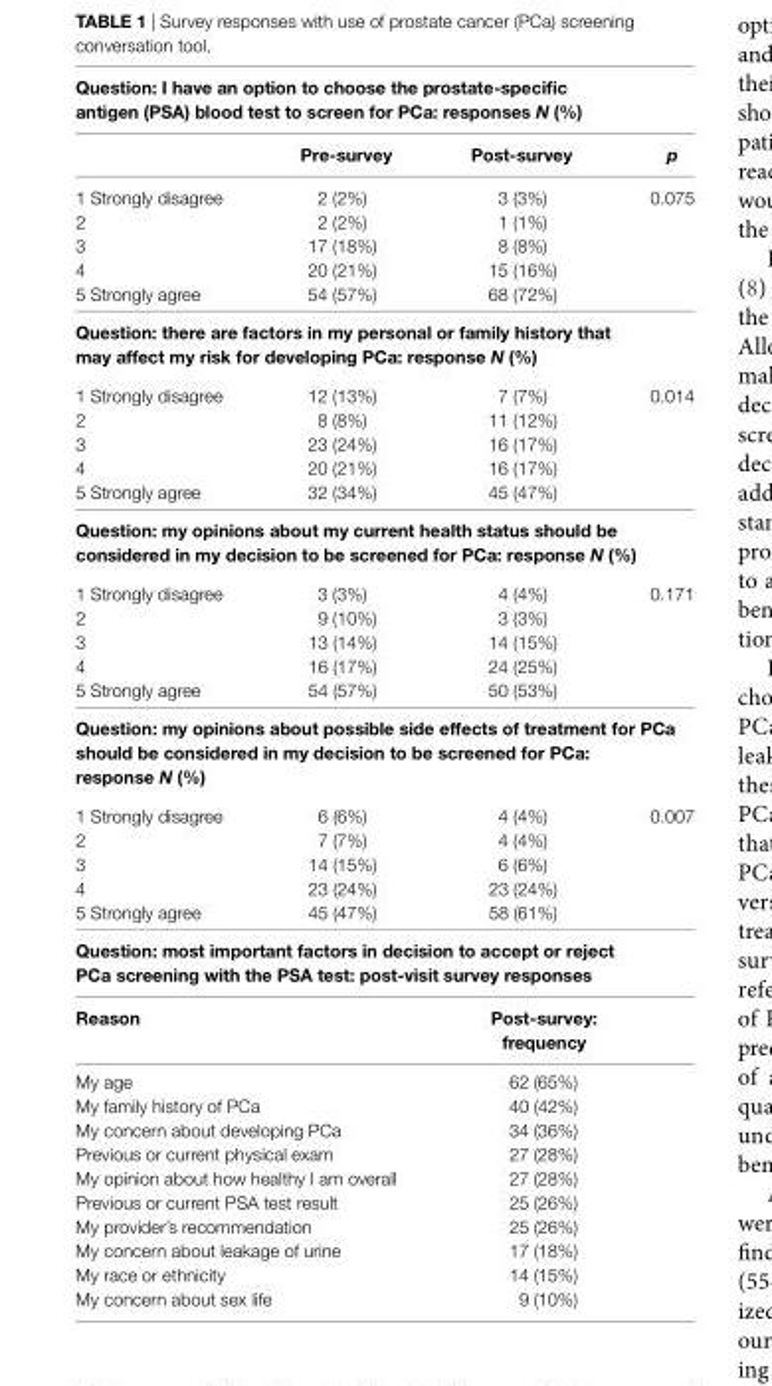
<table><thead><tr><td colspan="4">Question: i have an option to choose the prostate-specific antigen (Psa) blood test to screen for Pca: responses N (%)</td></tr><tr><td></td><td>Pre-survey</td><td>Post-survey</td><td>p</td></tr></thead><tbody><tr><td>1 Strongly disagree</td><td>2 (2%)</td><td>3 (3%)</td><td rowspan="5">0.075</td></tr><tr><td>2</td><td>2 (2%)</td><td>1 (1%)</td></tr><tr><td>3</td><td>17 (18%)</td><td>8 (8%)</td></tr><tr><td>4</td><td>20 (21%)</td><td>15 (16%)</td></tr><tr><td>5 Strongly agree</td><td>54 (57%)</td><td>68 (72%)</td></tr><tr><td colspan="4">Question: there are factors in my personal or family history that may affect my risk for developing Pca: response N (%)</td></tr><tr><td>1 Strongly disagree</td><td>12 (13%)</td><td>7 (7%)</td><td rowspan="5">0.014</td></tr><tr><td>2</td><td>8 (8%)</td><td>11 (12%)</td></tr><tr><td>3</td><td>23 (24%)</td><td>16 (17%)</td></tr><tr><td>4</td><td>20 (21%)</td><td>16 (17%)</td></tr><tr><td>5 Strongly agree</td><td>32 (34%)</td><td>45 (47%)</td></tr><tr><td colspan="4">Question: my opinions about my current health status should be considered in my decision to be screened for Pca: response N (%)</td></tr><tr><td>1 Strongly disagree</td><td>3 (3%)</td><td>4 (4%)</td><td rowspan="5">0.171</td></tr><tr><td>2</td><td>9 (10%)</td><td>3 (3%)</td></tr><tr><td>3</td><td>13 (14%)</td><td>14 (15%)</td></tr><tr><td>4</td><td>16 (17%)</td><td>24 (25%)</td></tr><tr><td>5 Strongly agree</td><td>54 (57%)</td><td>50 (53%)</td></tr><tr><td colspan="4">Question: my opinions about possible side effects of treatment for Pca should be considered in my decision to be screened for Pca: response N (%)</td></tr><tr><td>1 Strongly disagree</td><td>6 (6%)</td><td>4 (4%)</td><td rowspan="5">0.007</td></tr><tr><td>2</td><td>7 (7%)</td><td>4 (4%)</td></tr><tr><td>3</td><td>14 (15%)</td><td>6 (6%)</td></tr><tr><td>4</td><td>23 (24%)</td><td>23 (24%)</td></tr><tr><td>5 Strongly agree</td><td>45 (47%)</td><td>58 (61%)</td></tr><tr><td colspan="4">Question: most important factors in decision to accept or reject Pca screening with the Psa test: post-visit survey responses</td></tr><tr><td colspan="2">reason</td><td>Post-survey: frequency</td><td></td></tr><tr><td colspan="2">My age</td><td>62 (65%)</td><td></td></tr><tr><td colspan="2">My family history of PCa</td><td>40 (42%)</td><td></td></tr><tr><td colspan="2">My concern about developing PCa</td><td>34 (36%)</td><td></td></tr><tr><td colspan="2">Previous or current physical exam</td><td>27 (28%)</td><td></td></tr><tr><td colspan="2">My opinion about how healthy I am overall</td><td>27 (28%)</td><td></td></tr><tr><td colspan="2">Previous or current PSA test result</td><td>25 (26%)</td><td></td></tr><tr><td colspan="2">My provider’s recommendation</td><td>25 (26%)</td><td></td></tr><tr><td colspan="2">My concern about leakage of urine</td><td>17 (18%)</td><td></td></tr><tr><td colspan="2">My race or ethnicity</td><td>14 (15%)</td><td></td></tr><tr><td colspan="2">My concern about sex life</td><td>9 (10%)</td><td></td></tr></tbody></table>